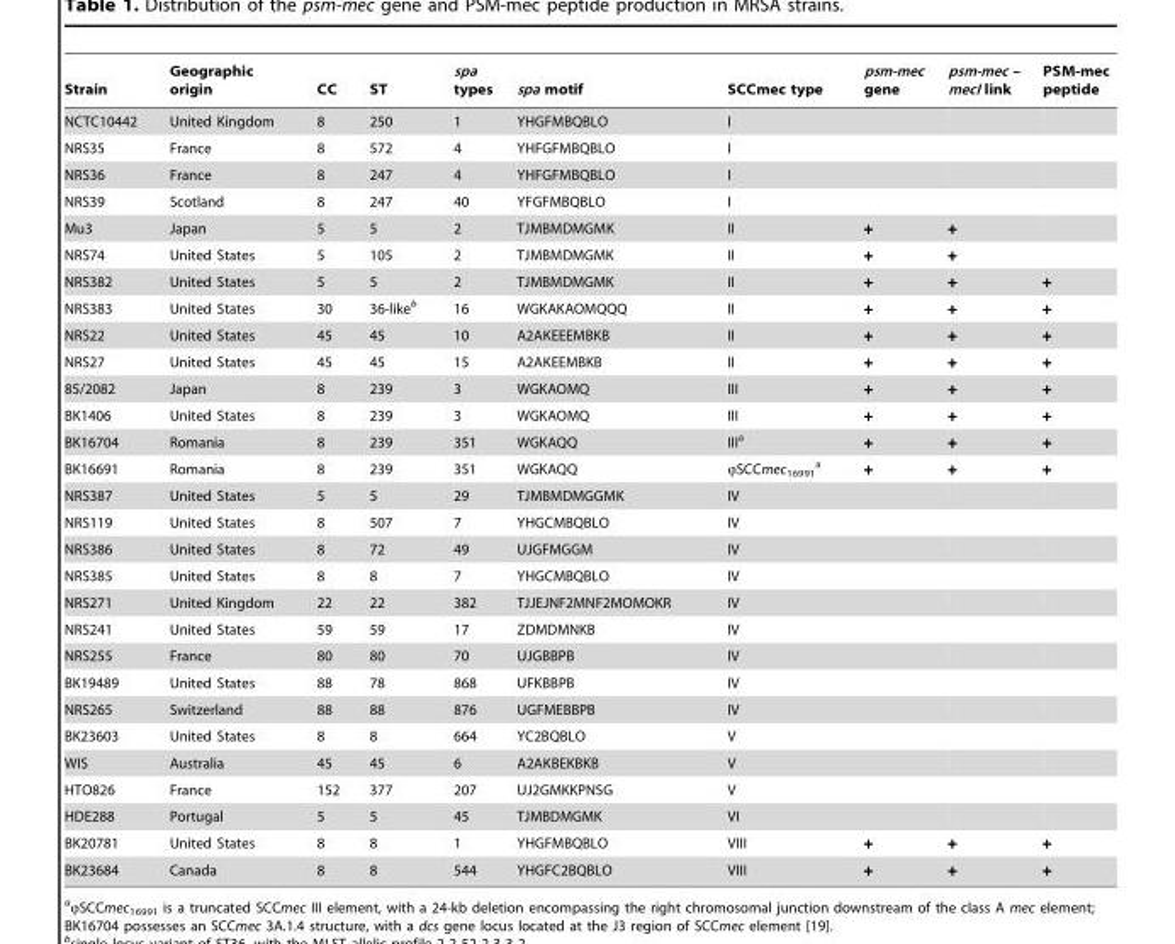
<table><thead><tr><td>Strain</td><td>Geographic origin</td><td>CC</td><td>ST</td><td>spa types</td><td>spa motif</td><td>SCCmec type</td><td>psm-mec gene</td><td>psm-mec – mecI link</td><td>PSM-mec peptide</td></tr></thead><tbody><tr><td>NCTC10442</td><td>United Kingdom</td><td>8</td><td>250</td><td>1</td><td>YHGFMBQBLO</td><td>I</td><td></td><td></td><td></td></tr><tr><td>NRS35</td><td>France</td><td>8</td><td>572</td><td>4</td><td>YHFGFMBQBLO</td><td>I</td><td></td><td></td><td></td></tr><tr><td>NRS36</td><td>France</td><td>8</td><td>247</td><td>4</td><td>YHFGFMBQBLO</td><td>I</td><td></td><td></td><td></td></tr><tr><td>NRS39</td><td>Scotland</td><td>8</td><td>247</td><td>40</td><td>YFGFMBQBLO</td><td>I</td><td></td><td></td><td></td></tr><tr><td>Mu3</td><td>Japan</td><td>5</td><td>5</td><td>2</td><td>TJMBMDMGMK</td><td>II</td><td>+</td><td>+</td><td></td></tr><tr><td>NRS74</td><td>United States</td><td>5</td><td>105</td><td>2</td><td>TJMBMDMGMK</td><td>II</td><td>+</td><td>+</td><td></td></tr><tr><td>NRS382</td><td>United States</td><td>5</td><td>5</td><td>2</td><td>TJMBMDMGMK</td><td>II</td><td>+</td><td>+</td><td>+</td></tr><tr><td>NRS383</td><td>United States</td><td>30</td><td>36-like<sup>b</sup></td><td>16</td><td>WGKAKAOMQQQ</td><td>II</td><td>+</td><td>+</td><td>+</td></tr><tr><td>NRS22</td><td>United States</td><td>45</td><td>45</td><td>10</td><td>A2AKEEEMBKB</td><td>II</td><td>+</td><td>+</td><td>+</td></tr><tr><td>NRS27</td><td>United States</td><td>45</td><td>45</td><td>15</td><td>A2AKEEMBKB</td><td>II</td><td>+</td><td>+</td><td>+</td></tr><tr><td>85/2082</td><td>Japan</td><td>8</td><td>239</td><td>3</td><td>WGKAOMQ</td><td>III</td><td>+</td><td>+</td><td>+</td></tr><tr><td>BK1406</td><td>United States</td><td>8</td><td>239</td><td>3</td><td>WGKAOMQ</td><td>III</td><td>+</td><td>+</td><td>+</td></tr><tr><td>BK16704</td><td>Romania</td><td>8</td><td>239</td><td>351</td><td>WGKAQQ</td><td>III<sup>a</sup></td><td>+</td><td>+</td><td>+</td></tr><tr><td>BK16691</td><td>Romania</td><td>8</td><td>239</td><td>351</td><td>WGKAQQ</td><td>ϕSCCmec<sub>16991</sub> a</td><td>+</td><td>+</td><td>+</td></tr><tr><td>NRS387</td><td>United States</td><td>5</td><td>5</td><td>29</td><td>TJMBMDMGGMK</td><td>IV</td><td></td><td></td><td></td></tr><tr><td>NRS119</td><td>United States</td><td>8</td><td>507</td><td>7</td><td>YHGCMBQBLO</td><td>IV</td><td></td><td></td><td></td></tr><tr><td>NRS386</td><td>United States</td><td>8</td><td>72</td><td>49</td><td>UJGFMGGM</td><td>IV</td><td></td><td></td><td></td></tr><tr><td>NRS385</td><td>United States</td><td>8</td><td>8</td><td>7</td><td>YHGCMBQBLO</td><td>IV</td><td></td><td></td><td></td></tr><tr><td>NRS271</td><td>United Kingdom</td><td>22</td><td>22</td><td>382</td><td>TJJEJNF2MNF2MOMOKR</td><td>IV</td><td></td><td></td><td></td></tr><tr><td>NRS241</td><td>United States</td><td>59</td><td>59</td><td>17</td><td>ZDMDMNKB</td><td>IV</td><td></td><td></td><td></td></tr><tr><td>NRS255</td><td>France</td><td>80</td><td>80</td><td>70</td><td>UJGBBPB</td><td>IV</td><td></td><td></td><td></td></tr><tr><td>BK19489</td><td>United States</td><td>88</td><td>78</td><td>868</td><td>UFKBBPB</td><td>IV</td><td></td><td></td><td></td></tr><tr><td>NRS265</td><td>Switzerland</td><td>88</td><td>88</td><td>876</td><td>UGFMEBBPB</td><td>IV</td><td></td><td></td><td></td></tr><tr><td>BK23603</td><td>United States</td><td>8</td><td>8</td><td>664</td><td>YC2BQBLO</td><td>V</td><td></td><td></td><td></td></tr><tr><td>WIS</td><td>Australia</td><td>45</td><td>45</td><td>6</td><td>A2AKBEKBKB</td><td>V</td><td></td><td></td><td></td></tr><tr><td>HTO826</td><td>France</td><td>152</td><td>377</td><td>207</td><td>UJ2GMKKPNSG</td><td>V</td><td></td><td></td><td></td></tr><tr><td>HDE288</td><td>Portugal</td><td>5</td><td>5</td><td>45</td><td>TJMBDMGMK</td><td>VI</td><td></td><td></td><td></td></tr><tr><td>BK20781</td><td>United States</td><td>8</td><td>8</td><td>1</td><td>YHGFMBQBLO</td><td>VIII</td><td>+</td><td>+</td><td>+</td></tr><tr><td>BK23684</td><td>Canada</td><td>8</td><td>8</td><td>544</td><td>YHGFC2BQBLO</td><td>VIII</td><td>+</td><td>+</td><td>+</td></tr></tbody></table>